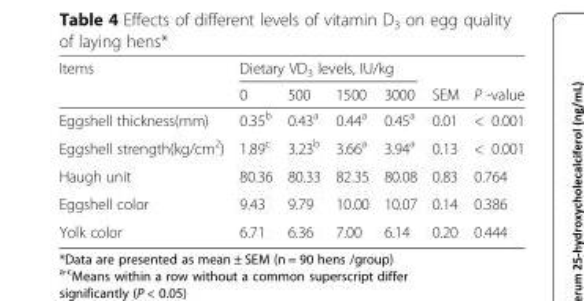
<table><thead><tr><td rowspan="2">Items</td><td colspan="4">Dietary VD<sub>3</sub> levels, IU/kg</td><td rowspan="2">SEM</td><td rowspan="2">P -value</td></tr><tr><td>0</td><td>500</td><td>1500</td><td>3000</td></tr></thead><tbody><tr><td>Eggshell thickness(mm)</td><td>0.35<sup>b</sup></td><td>0.43<sup>a</sup></td><td>0.44<sup>a</sup></td><td>0.45<sup>a</sup></td><td>0.01</td><td>&lt; 0.001</td></tr><tr><td>Eggshell strength(kg/cm<sup>2</sup>)</td><td>1.89<sup>c</sup></td><td>3.23<sup>b</sup></td><td>3.66<sup>a</sup></td><td>3.94<sup>a</sup></td><td>0.13</td><td>&lt; 0.001</td></tr><tr><td>Haugh unit</td><td>80.36</td><td>80.33</td><td>82.35</td><td>80.08</td><td>0.83</td><td>0.764</td></tr><tr><td>Eggshell color</td><td>9.43</td><td>9.79</td><td>10.00</td><td>10.07</td><td>0.14</td><td>0.386</td></tr><tr><td>Yolk color</td><td>6.71</td><td>6.36</td><td>7.00</td><td>6.14</td><td>0.20</td><td>0.444</td></tr></tbody></table>